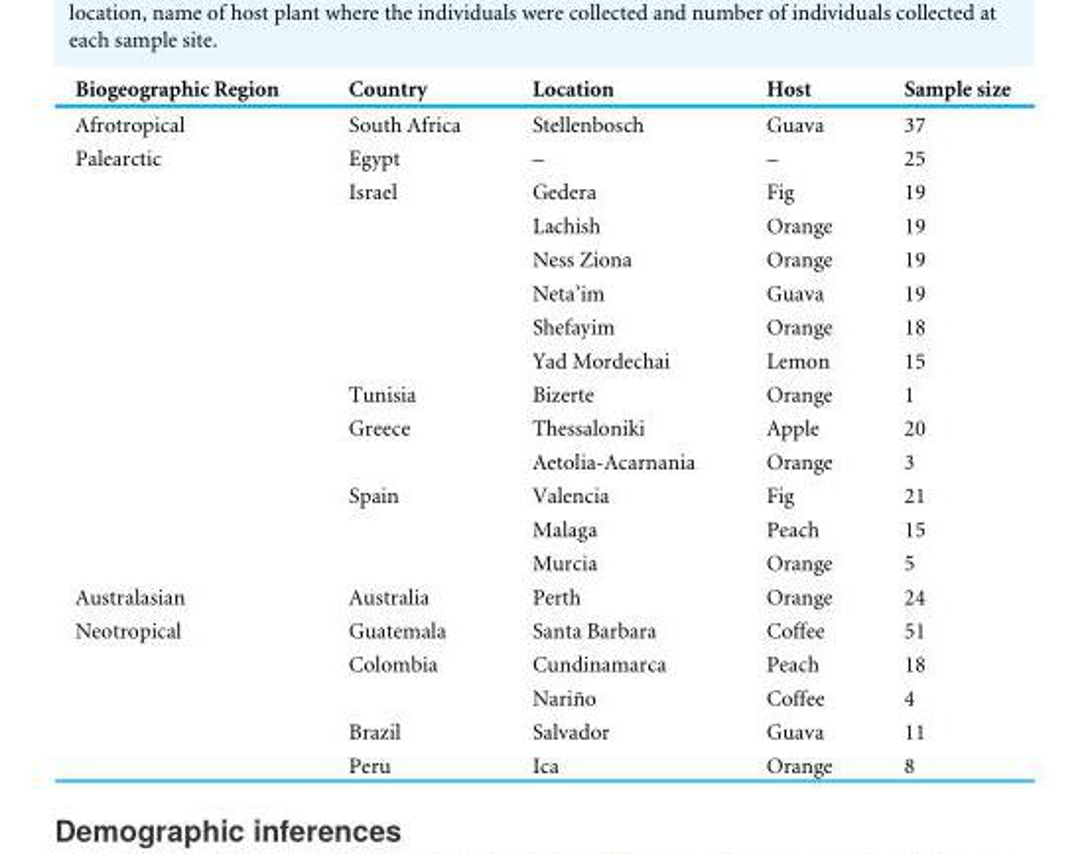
<table><thead><tr><td>Biogeographic Region</td><td>Country</td><td>Location</td><td>Host</td><td>Sample size</td></tr></thead><tbody><tr><td>Afrotropical</td><td>South Africa</td><td>Stellenbosch</td><td>Guava</td><td>37</td></tr><tr><td rowspan="13">Palearctic</td><td>Egypt</td><td>–</td><td>–</td><td>25</td></tr><tr><td>Israel</td><td>Gedera</td><td>Fig</td><td>19</td></tr><tr><td></td><td>Lachish</td><td>Orange</td><td>19</td></tr><tr><td></td><td>Ness Ziona</td><td>Orange</td><td>19</td></tr><tr><td></td><td>Neta’im</td><td>Guava</td><td>19</td></tr><tr><td></td><td>Shefayim</td><td>Orange</td><td>18</td></tr><tr><td></td><td>Yad Mordechai</td><td>Lemon</td><td>15</td></tr><tr><td>Tunisia</td><td>Bizerte</td><td>Orange</td><td>1</td></tr><tr><td>Greece</td><td>Thessaloniki</td><td>Apple</td><td>20</td></tr><tr><td></td><td>Aetolia-Acarnania</td><td>Orange</td><td>3</td></tr><tr><td>Spain</td><td>Valencia</td><td>Fig</td><td>21</td></tr><tr><td></td><td>Malaga</td><td>Peach</td><td>15</td></tr><tr><td></td><td>Murcia</td><td>Orange</td><td>5</td></tr><tr><td>Australasian</td><td>Australia</td><td>Perth</td><td>Orange</td><td>24</td></tr><tr><td rowspan="5">Neotropical</td><td>Guatemala</td><td>Santa Barbara</td><td>Coffee</td><td>51</td></tr><tr><td>Colombia</td><td>Cundinamarca</td><td>Peach</td><td>18</td></tr><tr><td></td><td>Nariño</td><td>Coffee</td><td>4</td></tr><tr><td>Brazil</td><td>Salvador</td><td>Guava</td><td>11</td></tr><tr><td>Peru</td><td>Ica</td><td>Orange</td><td>8</td></tr></tbody></table>